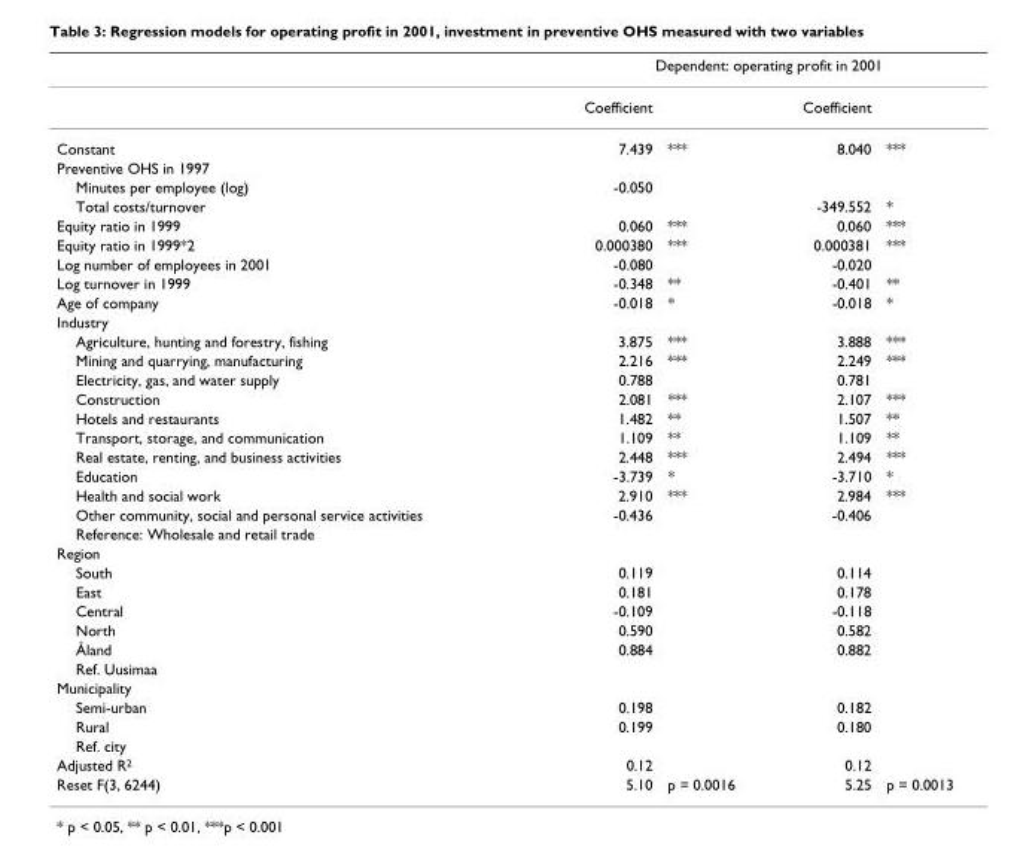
<table><thead><tr><td rowspan="2"></td><td colspan="4">Dependent: operating profit in 2001</td></tr><tr><td>Coefficient</td><td></td><td>Coefficient</td><td></td></tr></thead><tbody><tr><td>Constant</td><td>7.439</td><td>***</td><td>8.040</td><td>***</td></tr><tr><td colspan="5">Preventive OHS in 1997</td></tr><tr><td>Minutes per employee (log)</td><td>-0.050</td><td></td><td></td><td></td></tr><tr><td>Total costs/turnover</td><td></td><td></td><td>-349.552</td><td>*</td></tr><tr><td>Equity ratio in 1999</td><td>0.060</td><td>***</td><td>0.060</td><td>***</td></tr><tr><td>Equity ratio in 1999*2</td><td>0.000380</td><td>***</td><td>0.000381</td><td>***</td></tr><tr><td>Log number of employees in 2001</td><td>-0.080</td><td></td><td>-0.020</td><td></td></tr><tr><td>Log turnover in 1999</td><td>-0.348</td><td>**</td><td>-0.401</td><td>**</td></tr><tr><td>Age of company</td><td>-0.018</td><td>*</td><td>-0.018</td><td>*</td></tr><tr><td colspan="5">Industry</td></tr><tr><td>Agriculture, hunting and forestry, fishing</td><td>3.875</td><td>***</td><td>3.888</td><td>***</td></tr><tr><td>Mining and quarrying, manufacturing</td><td>2.216</td><td>***</td><td>2.249</td><td>***</td></tr><tr><td>Electricity, gas, and water supply</td><td>0.788</td><td></td><td>0.781</td><td></td></tr><tr><td>Construction</td><td>2.081</td><td>***</td><td>2.107</td><td>***</td></tr><tr><td>Hotels and restaurants</td><td>1.482</td><td>**</td><td>1.507</td><td>**</td></tr><tr><td>Transport, storage, and communication</td><td>1.109</td><td>**</td><td>1.109</td><td>**</td></tr><tr><td>Real estate, renting, and business activities</td><td>2.448</td><td>***</td><td>2.494</td><td>***</td></tr><tr><td>Education</td><td>-3.739</td><td>*</td><td>-3.710</td><td>*</td></tr><tr><td>Health and social work</td><td>2.910</td><td>***</td><td>2.984</td><td>***</td></tr><tr><td>Other community, social and personal service activities</td><td>-0.436</td><td></td><td>-0.406</td><td></td></tr><tr><td colspan="5">Reference: Wholesale and retail trade</td></tr><tr><td colspan="5">Region</td></tr><tr><td>South</td><td>0.119</td><td></td><td>0.114</td><td></td></tr><tr><td>East</td><td>0.181</td><td></td><td>0.178</td><td></td></tr><tr><td>Central</td><td>-0.109</td><td></td><td>-0.118</td><td></td></tr><tr><td>North</td><td>0.590</td><td></td><td>0.582</td><td></td></tr><tr><td>Åland</td><td>0.884</td><td></td><td>0.882</td><td></td></tr><tr><td colspan="5">Ref. Uusimaa</td></tr><tr><td colspan="5">Municipality</td></tr><tr><td>Semi-urban</td><td>0.198</td><td></td><td>0.182</td><td></td></tr><tr><td>Rural</td><td>0.199</td><td></td><td>0.180</td><td></td></tr><tr><td colspan="5">Ref. city</td></tr><tr><td>Adjusted R<sup>2</sup></td><td>0.12</td><td></td><td>0.12</td><td></td></tr><tr><td>Reset F(3, 6244)</td><td>5.10</td><td>p = 0.0016</td><td>5.25</td><td>p = 0.0013</td></tr></tbody></table>